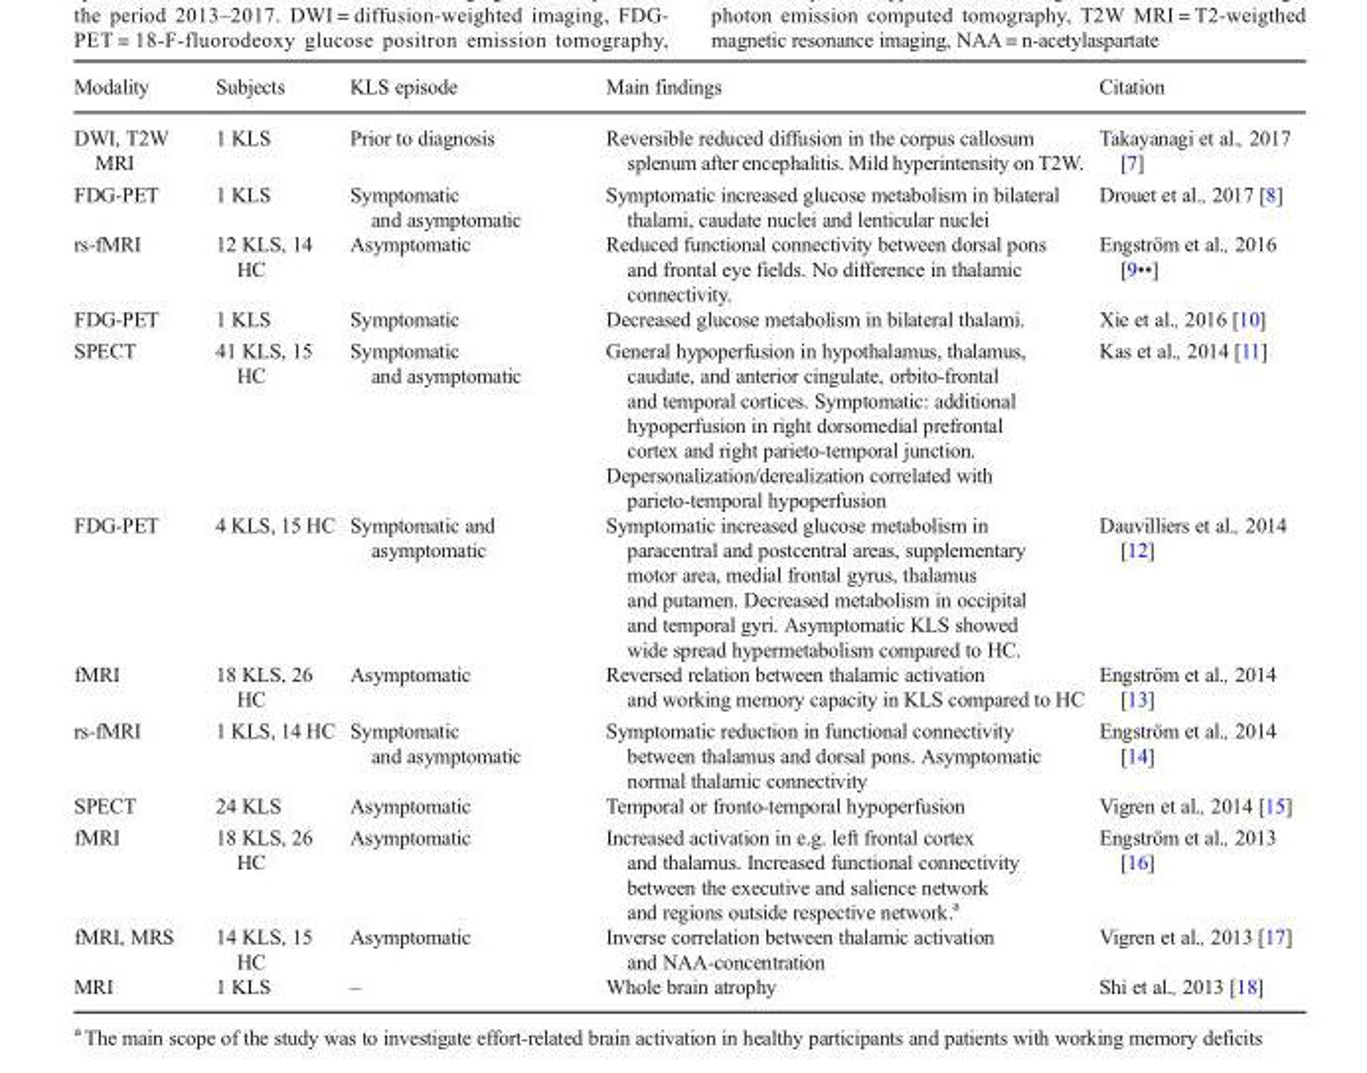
<table><thead><tr><td>Modality</td><td>Subjects</td><td>KLS episode</td><td>Main findings</td><td>Citation</td></tr></thead><tbody><tr><td>DWI, T2W MRI</td><td>1 KLS</td><td>Prior to diagnosis</td><td>Reversible reduced diffusion in the corpus callosum splenum after encephalitis. Mild hyperintensity on T2W.</td><td>Takayanagi et al., 2017 [7]</td></tr><tr><td>FDG-PET</td><td>1 KLS</td><td>Symptomatic and asymptomatic</td><td>Symptomatic increased glucose metabolism in bilateral thalami, caudate nuclei and lenticular nuclei</td><td>Drouet et al., 2017 [8]</td></tr><tr><td>rs-fMRI</td><td>12 KLS, 14 HC</td><td>Asymptomatic</td><td>Reduced functional connectivity between dorsal pons and frontal eye fields. No difference in thalamic connectivity.</td><td>Engström et al., 2016 [9••]</td></tr><tr><td>FDG-PET</td><td>1 KLS</td><td>Symptomatic</td><td>Decreased glucose metabolism in bilateral thalami.</td><td>Xie et al., 2016 [10]</td></tr><tr><td>SPECT</td><td>41 KLS, 15 HC</td><td>Symptomatic and asymptomatic</td><td>General hypoperfusion in hypothalamus, thalamus, caudate, and anterior cingulate, orbito-frontal and temporal cortices. Symptomatic: additional hypoperfusion in right dorsomedial prefrontal cortex and right parieto-temporal junction. Depersonalization/derealization correlated with parieto-temporal hypoperfusion</td><td>Kas et al., 2014 [11]</td></tr><tr><td>FDG-PET</td><td>4 KLS, 15 HC</td><td>Symptomatic and asymptomatic</td><td>Symptomatic increased glucose metabolism in paracentral and postcentral areas, supplementary motor area, medial frontal gyrus, thalamus and putamen. Decreased metabolism in occipital and temporal gyri. Asymptomatic KLS showed wide spread hypermetabolism compared to HC.</td><td>Dauvilliers et al., 2014 [12]</td></tr><tr><td>fMRI</td><td>18 KLS, 26 HC</td><td>Asymptomatic</td><td>Reversed relation between thalamic activation and working memory capacity in KLS compared to HC</td><td>Engström et al., 2014 [13]</td></tr><tr><td>rs-fMRI</td><td>1 KLS, 14 HC</td><td>Symptomatic and asymptomatic</td><td>Symptomatic reduction in functional connectivity between thalamus and dorsal pons. Asymptomatic normal thalamic connectivity</td><td>Engström et al., 2014 [14]</td></tr><tr><td>SPECT</td><td>24 KLS</td><td>Asymptomatic</td><td>Temporal or fronto-temporal hypoperfusion</td><td>Vigren et al., 2014 [15]</td></tr><tr><td>fMRI</td><td>18 KLS, 26 HC</td><td>Asymptomatic</td><td>Increased activation in e.g. left frontal cortex and thalamus. Increased functional connectivity between the executive and salience network and regions outside respective network.<sup>a</sup></td><td>Engström et al., 2013 [16]</td></tr><tr><td>fMRI, MRS</td><td>14 KLS, 15 HC</td><td>Asymptomatic</td><td>Inverse correlation between thalamic activation and NAA-concentration</td><td>Vigren et al., 2013 [17]</td></tr><tr><td>MRI</td><td>1 KLS</td><td>–</td><td>Whole brain atrophy</td><td>Shi et al., 2013 [18]</td></tr></tbody></table>